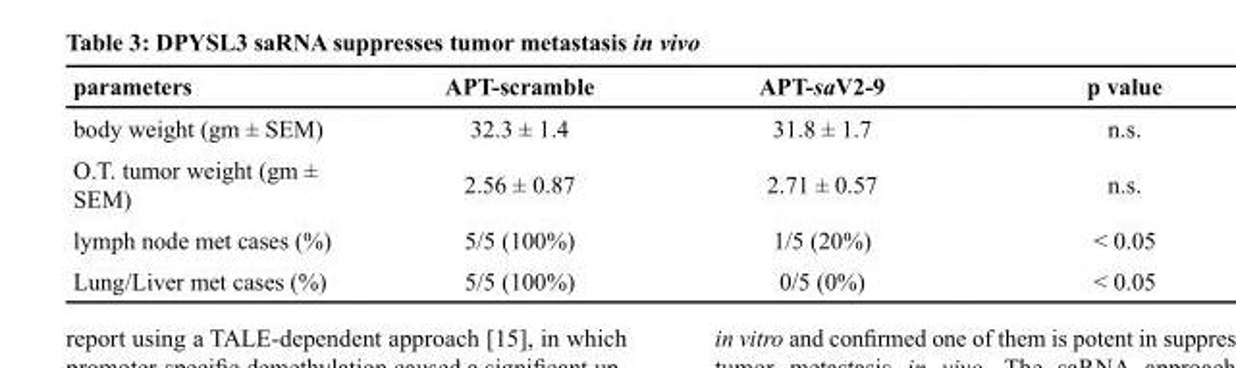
<table><thead><tr><td>parameters</td><td>APT-scramble</td><td>APT-saV2-9</td><td>p value</td></tr></thead><tbody><tr><td>body weight (gm ± SEM)</td><td>32.3 ± 1.4</td><td>31.8 ± 1.7</td><td>n.s.</td></tr><tr><td>O.T. tumor weight (gm ± SEM)</td><td>2.56 ± 0.87</td><td>2.71 ± 0.57</td><td>n.s.</td></tr><tr><td>lymph node met cases (%)</td><td>5/5 (100%)</td><td>1/5 (20%)</td><td>&lt; 0.05</td></tr><tr><td>Lung/Liver met cases (%)</td><td>5/5 (100%)</td><td>0/5 (0%)</td><td>&lt; 0.05</td></tr></tbody></table>